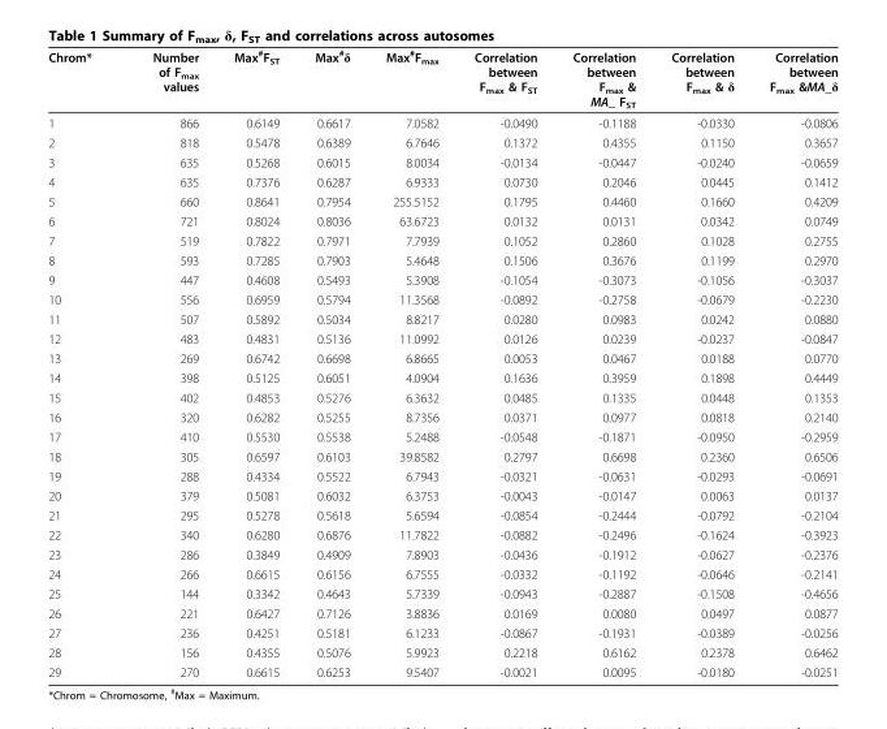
<table><thead><tr><td>Chrom*</td><td>Number of F<sub>max</sub> values</td><td>Max<sup>#</sup>F<sub>ST</sub></td><td>Max<sup>#</sup>δ</td><td>Max<sup>#</sup>F<sub>max</sub></td><td>Correlation between F<sub>max</sub> &amp; F<sub>ST</sub></td><td>Correlation between F<sub>max</sub> &amp; MA_ F<sub>ST</sub></td><td>Correlation between F<sub>max</sub> &amp; δ</td><td>Correlation between F<sub>max</sub> &amp;MA_δ</td></tr></thead><tbody><tr><td>1</td><td>866</td><td>0.6149</td><td>0.6617</td><td>7.0582</td><td>-0.0490</td><td>-0.1188</td><td>-0.0330</td><td>-0.0806</td></tr><tr><td>2</td><td>818</td><td>0.5478</td><td>0.6389</td><td>6.7646</td><td>0.1372</td><td>0.4355</td><td>0.1150</td><td>0.3657</td></tr><tr><td>3</td><td>635</td><td>0.5268</td><td>0.6015</td><td>8.0034</td><td>-0.0134</td><td>-0.0447</td><td>-0.0240</td><td>-0.0659</td></tr><tr><td>4</td><td>635</td><td>0.7376</td><td>0.6287</td><td>6.9333</td><td>0.0730</td><td>0.2046</td><td>0.0445</td><td>0.1412</td></tr><tr><td>5</td><td>660</td><td>0.8641</td><td>0.7954</td><td>255.5152</td><td>0.1795</td><td>0.4460</td><td>0.1660</td><td>0.4209</td></tr><tr><td>6</td><td>721</td><td>0.8024</td><td>0.8036</td><td>63.6723</td><td>0.0132</td><td>0.0131</td><td>0.0342</td><td>0.0749</td></tr><tr><td>7</td><td>519</td><td>0.7822</td><td>0.7971</td><td>7.7939</td><td>0.1052</td><td>0.2860</td><td>0.1028</td><td>0.2755</td></tr><tr><td>8</td><td>593</td><td>0.7285</td><td>0.7903</td><td>5.4648</td><td>0.1506</td><td>0.3676</td><td>0.1199</td><td>0.2970</td></tr><tr><td>9</td><td>447</td><td>0.4608</td><td>0.5493</td><td>5.3908</td><td>-0.1054</td><td>-0.3073</td><td>-0.1056</td><td>-0.3037</td></tr><tr><td>10</td><td>556</td><td>0.6959</td><td>0.5794</td><td>11.3568</td><td>-0.0892</td><td>-0.2758</td><td>-0.0679</td><td>-0.2230</td></tr><tr><td>11</td><td>507</td><td>0.5892</td><td>0.5034</td><td>8.8217</td><td>0.0280</td><td>0.0983</td><td>0.0242</td><td>0.0880</td></tr><tr><td>12</td><td>483</td><td>0.4831</td><td>0.5136</td><td>11.0992</td><td>0.0126</td><td>0.0239</td><td>-0.0237</td><td>-0.0847</td></tr><tr><td>13</td><td>269</td><td>0.6742</td><td>0.6698</td><td>6.8665</td><td>0.0053</td><td>0.0467</td><td>0.0188</td><td>0.0770</td></tr><tr><td>14</td><td>398</td><td>0.5125</td><td>0.6051</td><td>4.0904</td><td>0.1636</td><td>0.3959</td><td>0.1898</td><td>0.4449</td></tr><tr><td>15</td><td>402</td><td>0.4853</td><td>0.5276</td><td>6.3632</td><td>0.0485</td><td>0.1335</td><td>0.0448</td><td>0.1353</td></tr><tr><td>16</td><td>320</td><td>0.6282</td><td>0.5255</td><td>8.7356</td><td>0.0371</td><td>0.0977</td><td>0.0818</td><td>0.2140</td></tr><tr><td>17</td><td>410</td><td>0.5530</td><td>0.5538</td><td>5.2488</td><td>-0.0548</td><td>-0.1871</td><td>-0.0950</td><td>-0.2959</td></tr><tr><td>18</td><td>305</td><td>0.6597</td><td>0.6103</td><td>39.8582</td><td>0.2797</td><td>0.6698</td><td>0.2360</td><td>0.6506</td></tr><tr><td>19</td><td>288</td><td>0.4334</td><td>0.5522</td><td>6.7943</td><td>-0.0321</td><td>-0.0631</td><td>-0.0293</td><td>-0.0691</td></tr><tr><td>20</td><td>379</td><td>0.5081</td><td>0.6032</td><td>6.3753</td><td>-0.0043</td><td>-0.0147</td><td>0.0063</td><td>0.0137</td></tr><tr><td>21</td><td>295</td><td>0.5278</td><td>0.5618</td><td>5.6594</td><td>-0.0854</td><td>-0.2444</td><td>-0.0792</td><td>-0.2104</td></tr><tr><td>22</td><td>340</td><td>0.6280</td><td>0.6876</td><td>11.7822</td><td>-0.0882</td><td>-0.2496</td><td>-0.1624</td><td>-0.3923</td></tr><tr><td>23</td><td>286</td><td>0.3849</td><td>0.4909</td><td>7.8903</td><td>-0.0436</td><td>-0.1912</td><td>-0.0627</td><td>-0.2376</td></tr><tr><td>24</td><td>266</td><td>0.6615</td><td>0.6156</td><td>6.7555</td><td>-0.0332</td><td>-0.1192</td><td>-0.0646</td><td>-0.2141</td></tr><tr><td>25</td><td>144</td><td>0.3342</td><td>0.4643</td><td>5.7339</td><td>-0.0943</td><td>-0.2887</td><td>-0.1508</td><td>-0.4656</td></tr><tr><td>26</td><td>221</td><td>0.6427</td><td>0.7126</td><td>3.8836</td><td>0.0169</td><td>0.0080</td><td>0.0497</td><td>0.0877</td></tr><tr><td>27</td><td>236</td><td>0.4251</td><td>0.5181</td><td>6.1233</td><td>-0.0867</td><td>-0.1931</td><td>-0.0389</td><td>-0.0256</td></tr><tr><td>28</td><td>156</td><td>0.4355</td><td>0.5076</td><td>5.9923</td><td>0.2218</td><td>0.6162</td><td>0.2378</td><td>0.6462</td></tr><tr><td>29</td><td>270</td><td>0.6615</td><td>0.6253</td><td>9.5407</td><td>-0.0021</td><td>0.0095</td><td>-0.0180</td><td>-0.0251</td></tr></tbody></table>